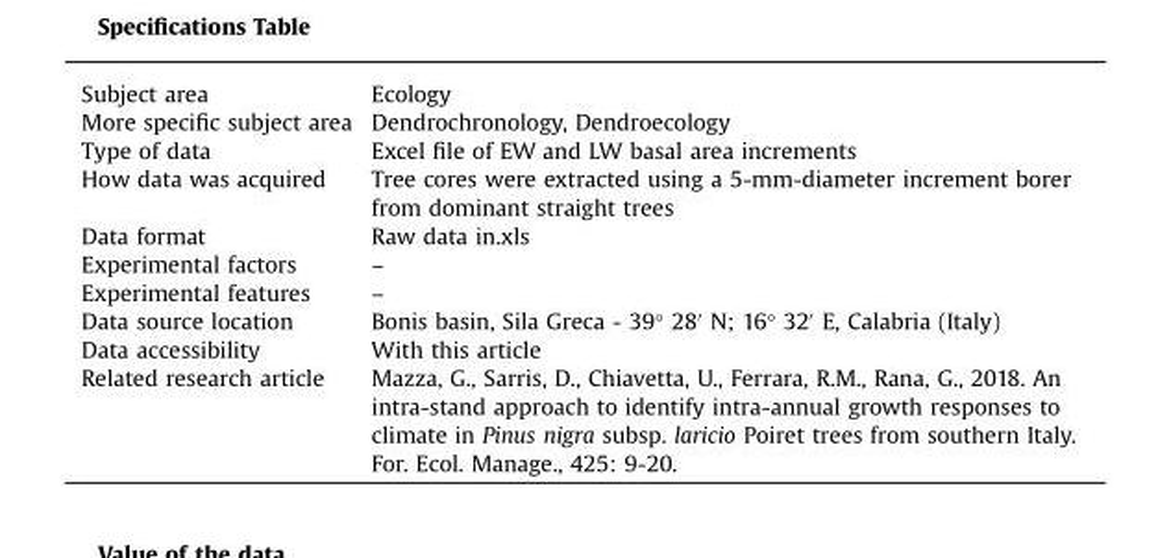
<table><tbody><tr><td>Subject area</td><td>Ecology</td></tr><tr><td>More specific subject area</td><td>Dendrochronology, Dendroecology</td></tr><tr><td>Type of data</td><td>Excel file of EW and LW basal area increments</td></tr><tr><td>How data was acquired</td><td>Tree cores were extracted using a 5-mm-diameter increment borer from dominant straight trees</td></tr><tr><td>Data format</td><td>Raw data in.xls</td></tr><tr><td>Experimental factors</td><td>–</td></tr><tr><td>Experimental features</td><td>–</td></tr><tr><td>Data source location</td><td>Bonis basin, Sila Greca - 39° 28′ N; 16° 32′ E, Calabria (Italy)</td></tr><tr><td>Data accessibility</td><td>With this article</td></tr><tr><td>Related research article</td><td>Mazza, G., Sarris, D., Chiavetta, U., Ferrara, R.M., Rana, G., 2018. An intra-stand approach to identify intra-annual growth responses to climate in Pinus nigra subsp. laricio Poiret trees from southern Italy. For. Ecol. Manage., 425: 9-20.</td></tr></tbody></table>